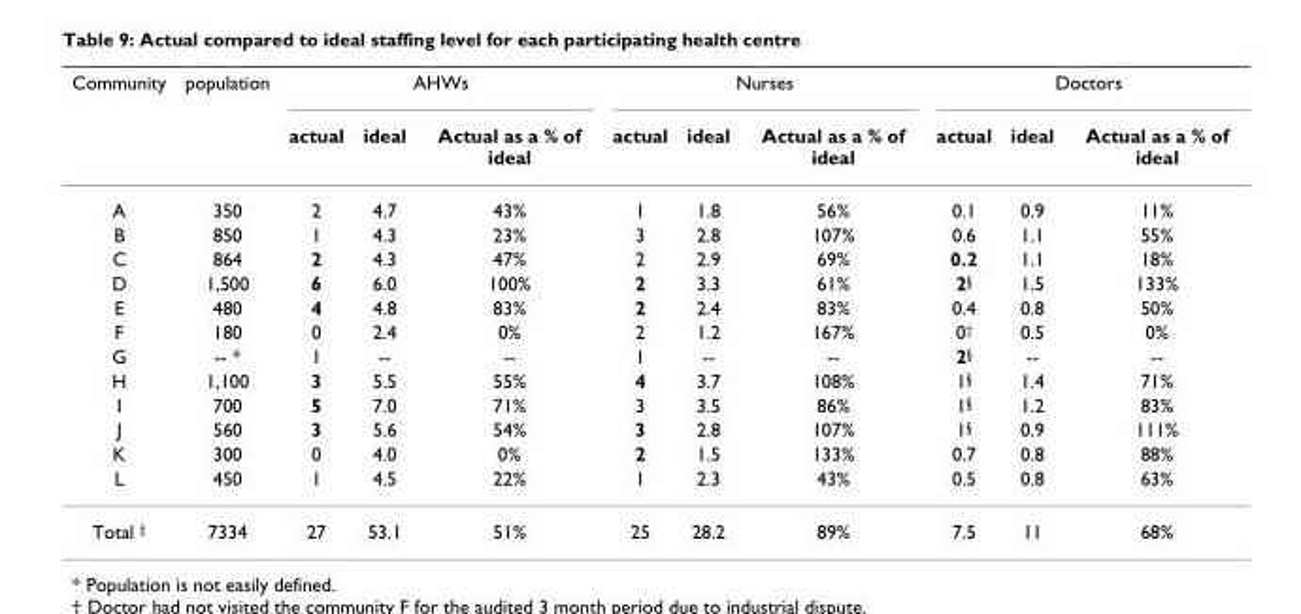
<table><thead><tr><td rowspan="2">Community</td><td rowspan="2">population</td><td colspan="3">AHWs</td><td colspan="3">Nurses</td><td colspan="3">Doctors</td></tr><tr><td>actual</td><td>ideal</td><td>Actual as a % of ideal</td><td>actual</td><td>ideal</td><td>Actual as a % of ideal</td><td>actual</td><td>ideal</td><td>Actual as a % of ideal</td></tr></thead><tbody><tr><td>A</td><td>350</td><td>2</td><td>4.7</td><td>43%</td><td>1</td><td>1.8</td><td>56%</td><td>0.1</td><td>0.9</td><td>11%</td></tr><tr><td>B</td><td>850</td><td>1</td><td>4.3</td><td>23%</td><td>3</td><td>2.8</td><td>107%</td><td>0.6</td><td>1.1</td><td>55%</td></tr><tr><td>C</td><td>864</td><td>2</td><td>4.3</td><td>47%</td><td>2</td><td>2.9</td><td>69%</td><td>0.2</td><td>1.1</td><td>18%</td></tr><tr><td>D</td><td>1,500</td><td>6</td><td>6.0</td><td>100%</td><td>2</td><td>3.3</td><td>61%</td><td>2<sup>§</sup></td><td>1.5</td><td>133%</td></tr><tr><td>E</td><td>480</td><td>4</td><td>4.8</td><td>83%</td><td>2</td><td>2.4</td><td>83%</td><td>0.4</td><td>0.8</td><td>50%</td></tr><tr><td>F</td><td>180</td><td>0</td><td>2.4</td><td>0%</td><td>2</td><td>1.2</td><td>167%</td><td>0<sup>†</sup></td><td>0.5</td><td>0%</td></tr><tr><td>G</td><td>-- *</td><td>1</td><td>--</td><td>--</td><td>1</td><td>--</td><td>--</td><td>2<sup>§</sup></td><td>--</td><td>--</td></tr><tr><td>H</td><td>1,100</td><td>3</td><td>5.5</td><td>55%</td><td>4</td><td>3.7</td><td>108%</td><td>1<sup>§</sup></td><td>1.4</td><td>71%</td></tr><tr><td>I</td><td>700</td><td>5</td><td>7.0</td><td>71%</td><td>3</td><td>3.5</td><td>86%</td><td>1<sup>§</sup></td><td>1.2</td><td>83%</td></tr><tr><td>J</td><td>560</td><td>3</td><td>5.6</td><td>54%</td><td>3</td><td>2.8</td><td>107%</td><td>1<sup>§</sup></td><td>0.9</td><td>111%</td></tr><tr><td>K</td><td>300</td><td>0</td><td>4.0</td><td>0%</td><td>2</td><td>1.5</td><td>133%</td><td>0.7</td><td>0.8</td><td>88%</td></tr><tr><td>L</td><td>450</td><td>1</td><td>4.5</td><td>22%</td><td>1</td><td>2.3</td><td>43%</td><td>0.5</td><td>0.8</td><td>63%</td></tr><tr><td>Total <sup>‡</sup></td><td>7334</td><td>27</td><td>53.1</td><td>51%</td><td>25</td><td>28.2</td><td>89%</td><td>7.5</td><td>11</td><td>68%</td></tr></tbody></table>